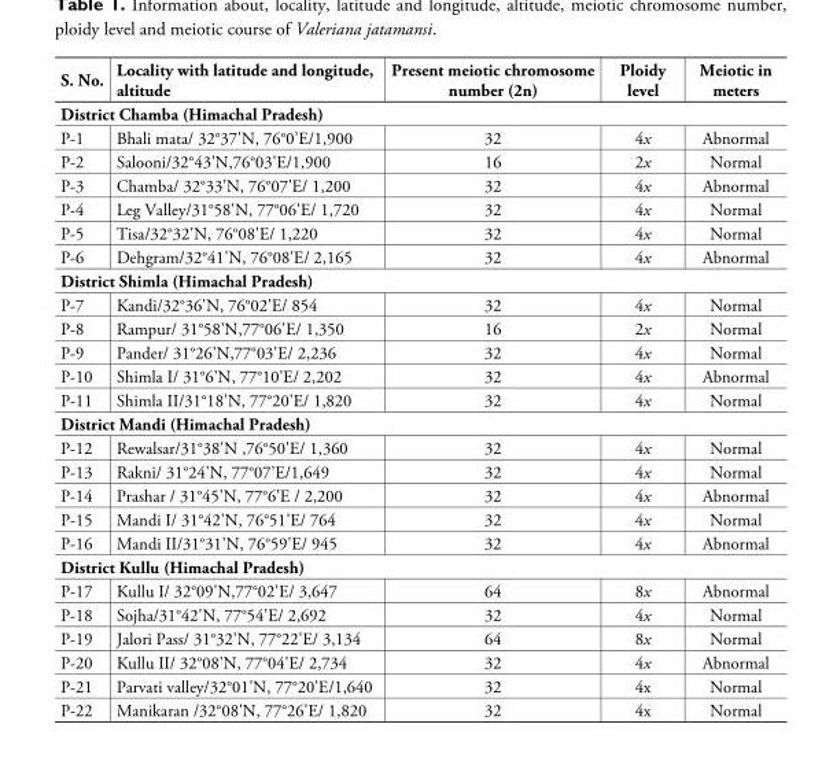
<table><thead><tr><td>S. No.</td><td>Locality with latitude and longitude, altitude</td><td>Present meiotic chromosome number (2n)</td><td>Ploidy level</td><td>Meiotic in meters</td></tr></thead><tbody><tr><td colspan="5">District Chamba (Himachal Pradesh)</td></tr><tr><td>P-1</td><td>Bhali mata/ 32°37&#x27;N, 76°0’E/1,900</td><td>32</td><td>4x</td><td>Abnormal</td></tr><tr><td>P-2</td><td>Salooni/32°43&#x27;N,76°03&#x27;E/1,900</td><td>16</td><td>2x</td><td>Normal</td></tr><tr><td>P-3</td><td>Chamba/ 32°33&#x27;N, 76°07&#x27;E/ 1,200</td><td>32</td><td>4x</td><td>Abnormal</td></tr><tr><td>P-4</td><td>Leg Valley/31°58&#x27;N, 77°06&#x27;E/ 1,720</td><td>32</td><td>4x</td><td>Normal</td></tr><tr><td>P-5</td><td>Tisa/32°32&#x27;N, 76°08&#x27;E/ 1,220</td><td>32</td><td>4x</td><td>Normal</td></tr><tr><td>P-6</td><td>Dehgram/32°41&#x27;N, 76°08&#x27;E/ 2,165</td><td>32</td><td>4x</td><td>Abnormal</td></tr><tr><td colspan="5">District Shimla (Himachal Pradesh)</td></tr><tr><td>P-7</td><td>Kandi/32°36&#x27;N, 76°02&#x27;E/ 854</td><td>32</td><td>4x</td><td>Normal</td></tr><tr><td>P-8</td><td>Rampur/ 31°58&#x27;N,77°06&#x27;E/ 1,350</td><td>16</td><td>2x</td><td>Normal</td></tr><tr><td>P-9</td><td>Pander/ 31°26&#x27;N,77°03&#x27;E/ 2,236</td><td>32</td><td>4x</td><td>Normal</td></tr><tr><td>P-10</td><td>Shimla I/ 31°6&#x27;N, 77°10&#x27;E/ 2,202</td><td>32</td><td>4x</td><td>Abnormal</td></tr><tr><td>P-11</td><td>Shimla II/31°18&#x27;N, 77°20&#x27;E/ 1,820</td><td>32</td><td>4x</td><td>Normal</td></tr><tr><td colspan="5">District Mandi (Himachal Pradesh)</td></tr><tr><td>P-12</td><td>Rewalsar/31°38&#x27;N ,76°50&#x27;E/ 1,360</td><td>32</td><td>4x</td><td>Normal</td></tr><tr><td>P-13</td><td>Rakni/ 31°24&#x27;N, 77°07’E/1,649</td><td>32</td><td>4x</td><td>Normal</td></tr><tr><td>P-14</td><td>Prashar / 31°45&#x27;N, 77°6&#x27;E / 2,200</td><td>32</td><td>4x</td><td>Abnormal</td></tr><tr><td>P-15</td><td>Mandi I/ 31°42&#x27;N, 76°51&#x27;E/ 764</td><td>32</td><td>4x</td><td>Normal</td></tr><tr><td>P-16</td><td>Mandi II/31°31&#x27;N, 76°59&#x27;E/ 945</td><td>32</td><td>4x</td><td>Abnormal</td></tr><tr><td colspan="5">District Kullu (Himachal Pradesh)</td></tr><tr><td>P-17</td><td>Kullu I/ 32°09&#x27;N,77°02&#x27;E/ 3,647</td><td>64</td><td>8x</td><td>Abnormal</td></tr><tr><td>P-18</td><td>Sojha/31°42&#x27;N, 77°54&#x27;E/ 2,692</td><td>32</td><td>4x</td><td>Normal</td></tr><tr><td>P-19</td><td>Jalori Pass/ 31°32&#x27;N, 77°22&#x27;E/ 3,134</td><td>64</td><td>8x</td><td>Normal</td></tr><tr><td>P-20</td><td>Kullu II/ 32°08&#x27;N, 77°04&#x27;E/ 2,734</td><td>32</td><td>4x</td><td>Abnormal</td></tr><tr><td>P-21</td><td>Parvati valley/32°01&#x27;N, 77°20&#x27;E/1,640</td><td>32</td><td>4x</td><td>Normal</td></tr><tr><td>P-22</td><td>Manikaran /32°08&#x27;N, 77°26&#x27;E/ 1,820</td><td>32</td><td>4x</td><td>Normal</td></tr></tbody></table>